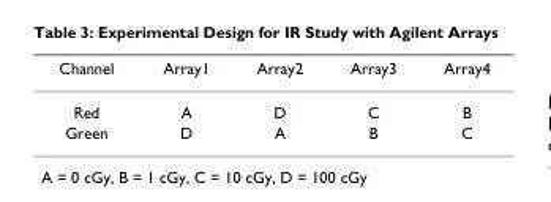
<table><thead><tr><td>Channel</td><td>Array1</td><td>Array2</td><td>Array3</td><td>Array4</td></tr></thead><tbody><tr><td>Red</td><td>A</td><td>D</td><td>C</td><td>B</td></tr><tr><td>Green</td><td>D</td><td>A</td><td>B</td><td>C</td></tr></tbody></table>